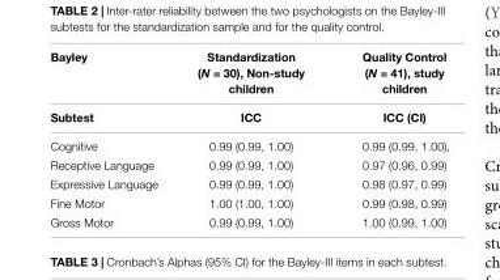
<table><thead><tr><td rowspan="2">Bayley Subtest</td><td rowspan="2">Standardization (N = 30), Non-study children ICC</td><td rowspan="2">Quality Control (N = 41), study children ICC (CI)</td></tr><tr></tr></thead><tbody><tr><td>Cognitive</td><td>0.99 (0.99, 1.00)</td><td>0.99 (0.99, 1.00),</td></tr><tr><td>Receptive Language</td><td>0.99 (0.99, 1.00)</td><td>0.97 (0.96, 0.99)</td></tr><tr><td>Expressive Language</td><td>0.99 (0.99, 1.00)</td><td>0.98 (0.97, 0.99)</td></tr><tr><td>Fine Motor</td><td>1.00 (1.00, 1.00)</td><td>0.99 (0.98, 0.99)</td></tr><tr><td>Gross Motor</td><td>0.99 (0.99, 1.00)</td><td>1.00 (0.99, 1.00)</td></tr></tbody></table>